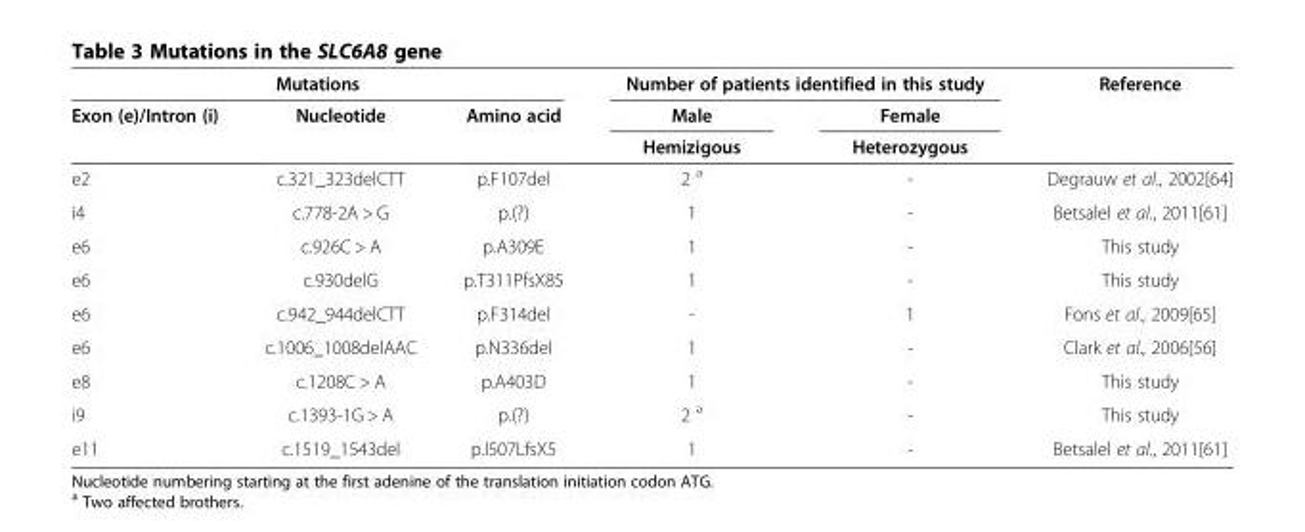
<table><thead><tr><td colspan="3">Mutations</td><td colspan="2">Number of patients identified in this study</td><td rowspan="3">Reference</td></tr><tr><td rowspan="2">Exon (e)/Intron (i)</td><td rowspan="2">Nucleotide</td><td rowspan="2">Amino acid</td><td rowspan="2">Male Hemizigous</td><td rowspan="2">Female Heterozygous</td></tr><tr></tr></thead><tbody><tr><td>e2</td><td>c.321_323delCTT</td><td>p.F107del</td><td>2 <sup>a</sup></td><td>-</td><td>Degrauw et al., 2002[64]</td></tr><tr><td>i4</td><td>c.778-2A &gt; G</td><td>p.(?)</td><td>1</td><td>-</td><td>Betsalel et al., 2011[61]</td></tr><tr><td>e6</td><td>c.926C &gt; A</td><td>p.A309E</td><td>1</td><td>-</td><td>This study</td></tr><tr><td>e6</td><td>c.930delG</td><td>p.T311PfsX85</td><td>1</td><td>-</td><td>This study</td></tr><tr><td>e6</td><td>c.942_944delCTT</td><td>p.F314del</td><td>-</td><td>1</td><td>Fons et al., 2009[65]</td></tr><tr><td>e6</td><td>c.1006_1008delAAC</td><td>p.N336del</td><td>1</td><td>-</td><td>Clark et al., 2006[56]</td></tr><tr><td>e8</td><td>c.1208C &gt; A</td><td>p.A403D</td><td>1</td><td>-</td><td>This study</td></tr><tr><td>i9</td><td>c.1393-1G &gt; A</td><td>p.(?)</td><td>2 <sup>a</sup></td><td>-</td><td>This study</td></tr><tr><td>e11</td><td>c.1519_1543del</td><td>p.I507LfsX5</td><td>1</td><td>-</td><td>Betsalel et al., 2011[61]</td></tr></tbody></table>